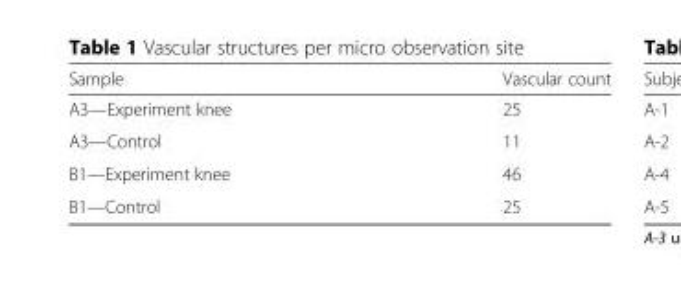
<table><thead><tr><td>Sample</td><td>Vascular count</td></tr></thead><tbody><tr><td>A3—Experiment knee</td><td>25</td></tr><tr><td>A3—Control</td><td>11</td></tr><tr><td>B1—Experiment knee</td><td>46</td></tr><tr><td>B1—Control</td><td>25</td></tr></tbody></table>